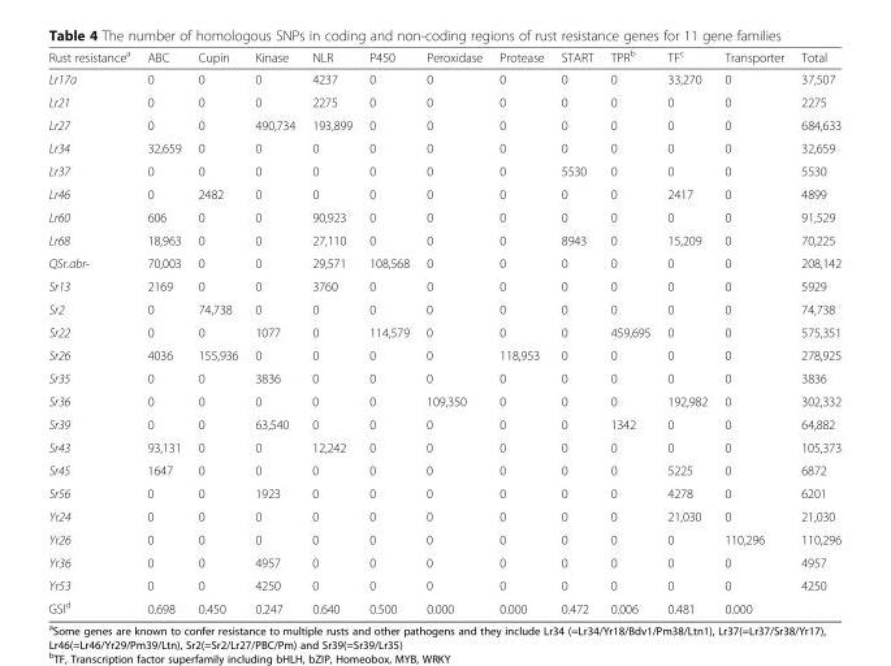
<table><thead><tr><td>Rust resistance<sup>a</sup></td><td>ABC</td><td>Cupin</td><td>Kinase</td><td>NLR</td><td>P450</td><td>Peroxidase</td><td>Protease</td><td>START</td><td>TPR<sup>b</sup></td><td>TF<sup>c</sup></td><td>Transporter</td><td>Total</td></tr></thead><tbody><tr><td>Lr17a</td><td>0</td><td>0</td><td>0</td><td>4237</td><td>0</td><td>0</td><td>0</td><td>0</td><td>0</td><td>33,270</td><td>0</td><td>37,507</td></tr><tr><td>Lr21</td><td>0</td><td>0</td><td>0</td><td>2275</td><td>0</td><td>0</td><td>0</td><td>0</td><td>0</td><td>0</td><td>0</td><td>2275</td></tr><tr><td>Lr27</td><td>0</td><td>0</td><td>490,734</td><td>193,899</td><td>0</td><td>0</td><td>0</td><td>0</td><td>0</td><td>0</td><td>0</td><td>684,633</td></tr><tr><td>Lr34</td><td>32,659</td><td>0</td><td>0</td><td>0</td><td>0</td><td>0</td><td>0</td><td>0</td><td>0</td><td>0</td><td>0</td><td>32,659</td></tr><tr><td>Lr37</td><td>0</td><td>0</td><td>0</td><td>0</td><td>0</td><td>0</td><td>0</td><td>5530</td><td>0</td><td>0</td><td>0</td><td>5530</td></tr><tr><td>Lr46</td><td>0</td><td>2482</td><td>0</td><td>0</td><td>0</td><td>0</td><td>0</td><td>0</td><td>0</td><td>2417</td><td>0</td><td>4899</td></tr><tr><td>Lr60</td><td>606</td><td>0</td><td>0</td><td>90,923</td><td>0</td><td>0</td><td>0</td><td>0</td><td>0</td><td>0</td><td>0</td><td>91,529</td></tr><tr><td>Lr68</td><td>18,963</td><td>0</td><td>0</td><td>27,110</td><td>0</td><td>0</td><td>0</td><td>8943</td><td>0</td><td>15,209</td><td>0</td><td>70,225</td></tr><tr><td>QSr.abr-</td><td>70,003</td><td>0</td><td>0</td><td>29,571</td><td>108,568</td><td>0</td><td>0</td><td>0</td><td>0</td><td>0</td><td>0</td><td>208,142</td></tr><tr><td>Sr13</td><td>2169</td><td>0</td><td>0</td><td>3760</td><td>0</td><td>0</td><td>0</td><td>0</td><td>0</td><td>0</td><td>0</td><td>5929</td></tr><tr><td>Sr2</td><td>0</td><td>74,738</td><td>0</td><td>0</td><td>0</td><td>0</td><td>0</td><td>0</td><td>0</td><td>0</td><td>0</td><td>74,738</td></tr><tr><td>Sr22</td><td>0</td><td>0</td><td>1077</td><td>0</td><td>114,579</td><td>0</td><td>0</td><td>0</td><td>459,695</td><td>0</td><td>0</td><td>575,351</td></tr><tr><td>Sr26</td><td>4036</td><td>155,936</td><td>0</td><td>0</td><td>0</td><td>0</td><td>118,953</td><td>0</td><td>0</td><td>0</td><td>0</td><td>278,925</td></tr><tr><td>Sr35</td><td>0</td><td>0</td><td>3836</td><td>0</td><td>0</td><td>0</td><td>0</td><td>0</td><td>0</td><td>0</td><td>0</td><td>3836</td></tr><tr><td>Sr36</td><td>0</td><td>0</td><td>0</td><td>0</td><td>0</td><td>109,350</td><td>0</td><td>0</td><td>0</td><td>192,982</td><td>0</td><td>302,332</td></tr><tr><td>Sr39</td><td>0</td><td>0</td><td>63,540</td><td>0</td><td>0</td><td>0</td><td>0</td><td>0</td><td>1342</td><td>0</td><td>0</td><td>64,882</td></tr><tr><td>Sr43</td><td>93,131</td><td>0</td><td>0</td><td>12,242</td><td>0</td><td>0</td><td>0</td><td>0</td><td>0</td><td>0</td><td>0</td><td>105,373</td></tr><tr><td>Sr45</td><td>1647</td><td>0</td><td>0</td><td>0</td><td>0</td><td>0</td><td>0</td><td>0</td><td>0</td><td>5225</td><td>0</td><td>6872</td></tr><tr><td>Sr56</td><td>0</td><td>0</td><td>1923</td><td>0</td><td>0</td><td>0</td><td>0</td><td>0</td><td>0</td><td>4278</td><td>0</td><td>6201</td></tr><tr><td>Yr24</td><td>0</td><td>0</td><td>0</td><td>0</td><td>0</td><td>0</td><td>0</td><td>0</td><td>0</td><td>21,030</td><td>0</td><td>21,030</td></tr><tr><td>Yr26</td><td>0</td><td>0</td><td>0</td><td>0</td><td>0</td><td>0</td><td>0</td><td>0</td><td>0</td><td>0</td><td>110,296</td><td>110,296</td></tr><tr><td>Yr36</td><td>0</td><td>0</td><td>4957</td><td>0</td><td>0</td><td>0</td><td>0</td><td>0</td><td>0</td><td>0</td><td>0</td><td>4957</td></tr><tr><td>Yr53</td><td>0</td><td>0</td><td>4250</td><td>0</td><td>0</td><td>0</td><td>0</td><td>0</td><td>0</td><td>0</td><td>0</td><td>4250</td></tr><tr><td>GSI<sup>d</sup></td><td>0.698</td><td>0.450</td><td>0.247</td><td>0.640</td><td>0.500</td><td>0.000</td><td>0.000</td><td>0.472</td><td>0.006</td><td>0.481</td><td>0.000</td><td></td></tr></tbody></table>